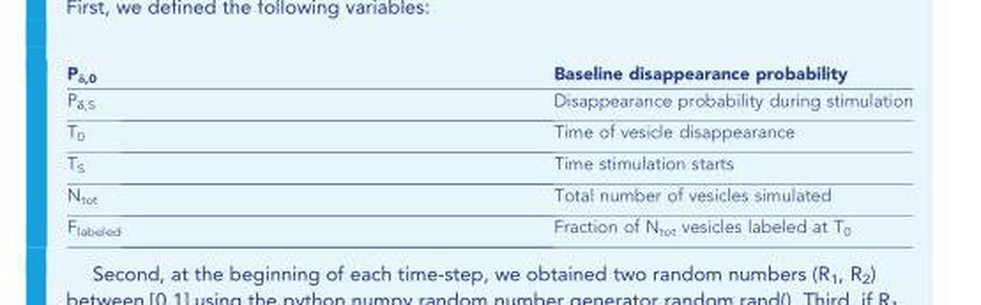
<table><thead><tr><td>P<sub>δ,0</sub></td><td>Baseline disappearance probability</td></tr></thead><tbody><tr><td>P<sub>δ,S</sub></td><td>Disappearance probability during stimulation</td></tr><tr><td>T<sub>0</sub></td><td>Time of vesicle disappearance</td></tr><tr><td>T<sub>S</sub></td><td>Time stimulation starts</td></tr><tr><td>N<sub>tot</sub></td><td>Total number of vesicles simulated</td></tr><tr><td>F<sub>labeled</sub></td><td>Fraction of N<sub>tot</sub> vesicles labeled at T<sub>0</sub></td></tr></tbody></table>